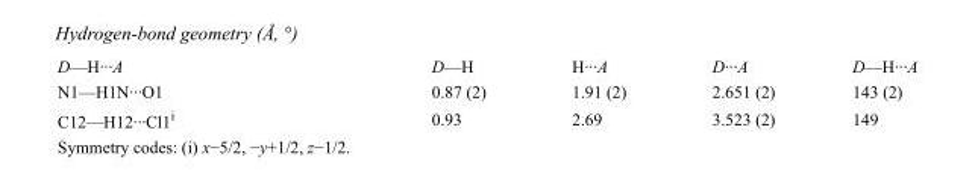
<table><tbody><tr><td>D—H···A</td><td>D—H</td><td>H···A</td><td>D···A</td><td>D—H···A</td></tr><tr><td>N1—H1N···O1</td><td>0.87 (2)</td><td>1.91 (2)</td><td>2.651 (2)</td><td>143 (2)</td></tr><tr><td>C12—H12···Cl1<sup>i</sup></td><td>0.93</td><td>2.69</td><td>3.523 (2)</td><td>149</td></tr></tbody></table>